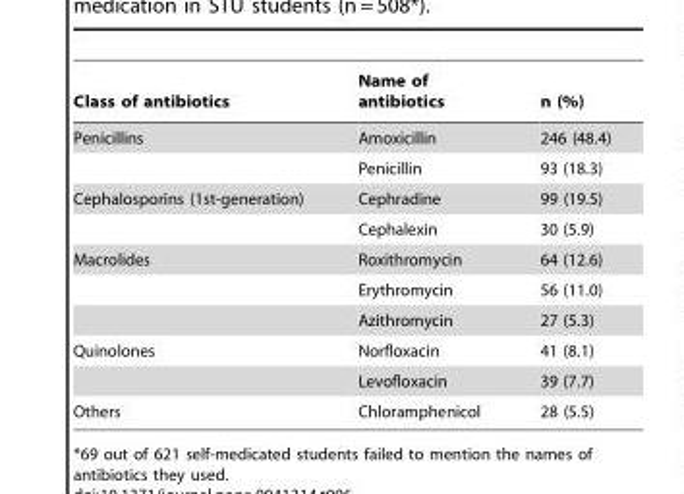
<table><thead><tr><td>Class of antibiotics</td><td>Name of antibiotics</td><td>n (%)</td></tr></thead><tbody><tr><td rowspan="2">Penicillins</td><td>Amoxicillin</td><td>246 (48.4)</td></tr><tr><td>Penicillin</td><td>93 (18.3)</td></tr><tr><td rowspan="2">Cephalosporins (1st-generation)</td><td>Cephradine</td><td>99 (19.5)</td></tr><tr><td>Cephalexin</td><td>30 (5.9)</td></tr><tr><td rowspan="3">Macrolides</td><td>Roxithromycin</td><td>64 (12.6)</td></tr><tr><td>Erythromycin</td><td>56 (11.0)</td></tr><tr><td>Azithromycin</td><td>27 (5.3)</td></tr><tr><td rowspan="2">Quinolones</td><td>Norfloxacin</td><td>41 (8.1)</td></tr><tr><td>Levofloxacin</td><td>39 (7.7)</td></tr><tr><td>Others</td><td>Chloramphenicol</td><td>28 (5.5)</td></tr></tbody></table>